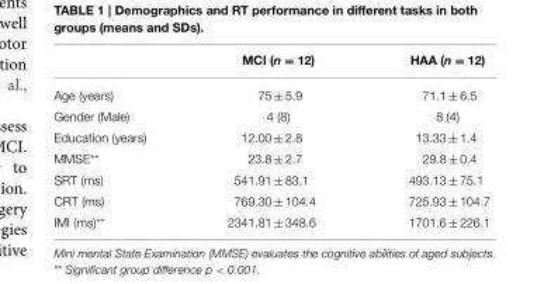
<table><thead><tr><td></td><td>MCI (n = 12)</td><td>HAA (n = 12)</td></tr></thead><tbody><tr><td>Age (years)</td><td>75 ± 5.9</td><td>71.1 ± 6.5</td></tr><tr><td>Gender (Male)</td><td>4 (8)</td><td>8 (4)</td></tr><tr><td>Education (years)</td><td>12.00 ± 2.8</td><td>13.33 ± 1.4</td></tr><tr><td>MMSE**</td><td>23.8 ± 2.7</td><td>29.8 ± 0.4</td></tr><tr><td>SRT (ms)</td><td>541.91 ± 83.1</td><td>493.13 ± 75.1</td></tr><tr><td>CRT (ms)</td><td>769.30 ± 104.4</td><td>725.93 ± 104.7</td></tr><tr><td>IMI (ms)**</td><td>2341.81 ± 348.6</td><td>1701.6 ± 226.1</td></tr></tbody></table>